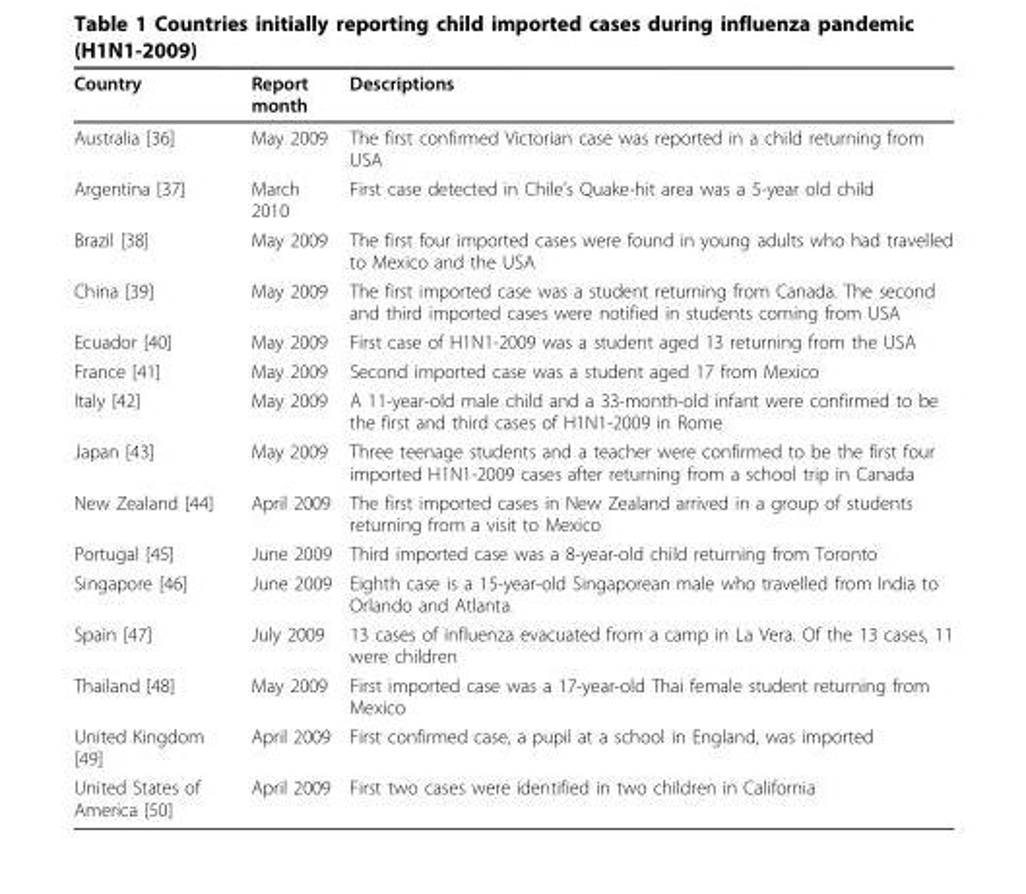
<table><thead><tr><td>Country</td><td>Report month</td><td>Descriptions</td></tr></thead><tbody><tr><td>Australia [36]</td><td>May 2009</td><td>The first confirmed Victorian case was reported in a child returning from USA</td></tr><tr><td>Argentina [37]</td><td>March 2010</td><td>First case detected in Chile’s Quake-hit area was a 5-year old child</td></tr><tr><td>Brazil [38]</td><td>May 2009</td><td>The first four imported cases were found in young adults who had travelled to Mexico and the USA</td></tr><tr><td>China [39]</td><td>May 2009</td><td>The first imported case was a student returning from Canada. The second and third imported cases were notified in students coming from USA</td></tr><tr><td>Ecuador [40]</td><td>May 2009</td><td>First case of H1N1-2009 was a student aged 13 returning from the USA</td></tr><tr><td>France [41]</td><td>May 2009</td><td>Second imported case was a student aged 17 from Mexico</td></tr><tr><td>Italy [42]</td><td>May 2009</td><td>A 11-year-old male child and a 33-month-old infant were confirmed to be the first and third cases of H1N1-2009 in Rome</td></tr><tr><td>Japan [43]</td><td>May 2009</td><td>Three teenage students and a teacher were confirmed to be the first four imported H1N1-2009 cases after returning from a school trip in Canada</td></tr><tr><td>New Zealand [44]</td><td>April 2009</td><td>The first imported cases in New Zealand arrived in a group of students returning from a visit to Mexico</td></tr><tr><td>Portugal [45]</td><td>June 2009</td><td>Third imported case was a 8-year-old child returning from Toronto</td></tr><tr><td>Singapore [46]</td><td>June 2009</td><td>Eighth case is a 15-year-old Singaporean male who travelled from India to Orlando and Atlanta</td></tr><tr><td>Spain [47]</td><td>July 2009</td><td>13 cases of influenza evacuated from a camp in La Vera. Of the 13 cases, 11 were children</td></tr><tr><td>Thailand [48]</td><td>May 2009</td><td>First imported case was a 17-year-old Thai female student returning from Mexico</td></tr><tr><td>United Kingdom [49]</td><td>April 2009</td><td>First confirmed case, a pupil at a school in England, was imported</td></tr><tr><td>United States of America [50]</td><td>April 2009</td><td>First two cases were identified in two children in California</td></tr></tbody></table>